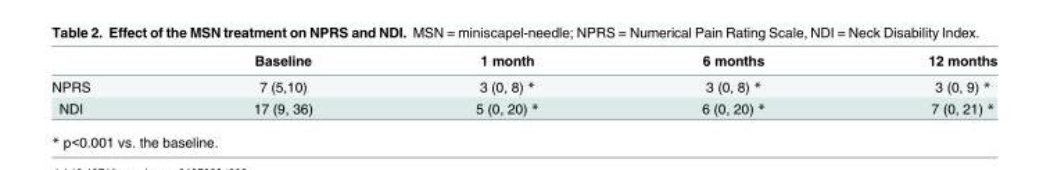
<table><thead><tr><td></td><td>Baseline</td><td>1 month</td><td>6 months</td><td>12 months</td></tr></thead><tbody><tr><td>NPRS</td><td>7 (5,10)</td><td>3 (0, 8) *</td><td>3 (0, 8) *</td><td>3 (0, 9) *</td></tr><tr><td>NDI</td><td>17 (9, 36)</td><td>5 (0, 20) *</td><td>6 (0, 20) *</td><td>7 (0, 21) *</td></tr></tbody></table>